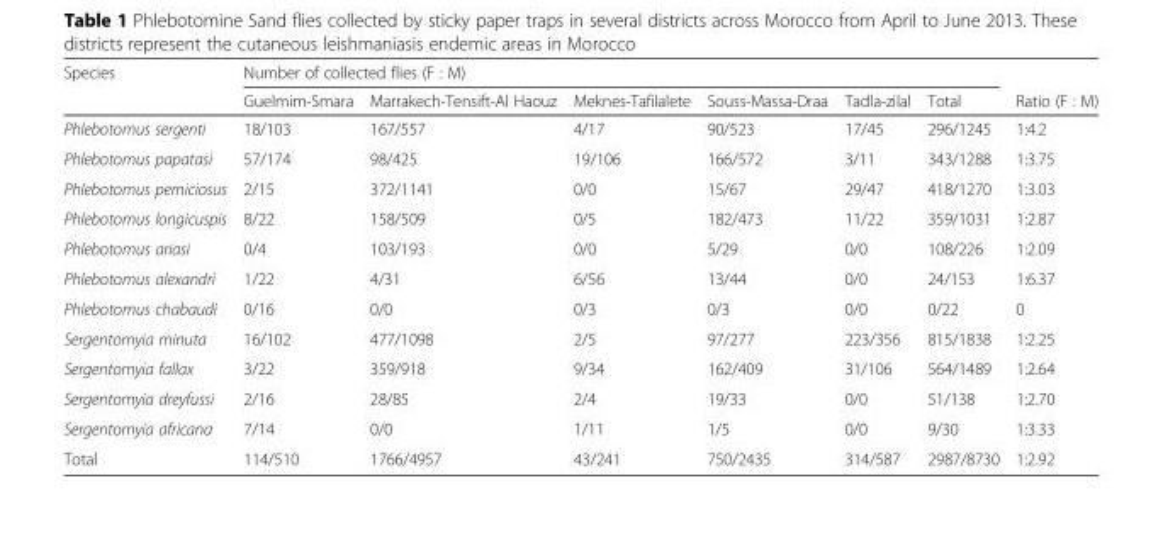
<table><thead><tr><td rowspan="2">Species</td><td colspan="6">Number of collected flies (F : M)</td><td rowspan="2">Ratio (F : M)</td></tr><tr><td>Guelmim-Smara</td><td>Marrakech-Tensift-Al Haouz</td><td>Meknes-Tafilalete</td><td>Souss-Massa-Draa</td><td>Tadla-zilal</td><td>Total</td></tr></thead><tbody><tr><td>Phlebotomus sergenti</td><td>18/103</td><td>167/557</td><td>4/17</td><td>90/523</td><td>17/45</td><td>296/1245</td><td>1:4.2</td></tr><tr><td>Phlebotomus papatasi</td><td>57/174</td><td>98/425</td><td>19/106</td><td>166/572</td><td>3/11</td><td>343/1288</td><td>1:3.75</td></tr><tr><td>Phlebotomus perniciosus</td><td>2/15</td><td>372/1141</td><td>0/0</td><td>15/67</td><td>29/47</td><td>418/1270</td><td>1:3.03</td></tr><tr><td>Phlebotomus longicuspis</td><td>8/22</td><td>158/509</td><td>0/5</td><td>182/473</td><td>11/22</td><td>359/1031</td><td>1:2.87</td></tr><tr><td>Phlebotomus ariasi</td><td>0/4</td><td>103/193</td><td>0/0</td><td>5/29</td><td>0/0</td><td>108/226</td><td>1:2.09</td></tr><tr><td>Phlebotomus alexandri</td><td>1/22</td><td>4/31</td><td>6/56</td><td>13/44</td><td>0/0</td><td>24/153</td><td>1:6.37</td></tr><tr><td>Phlebotomus chabaudi</td><td>0/16</td><td>0/0</td><td>0/3</td><td>0/3</td><td>0/0</td><td>0/22</td><td>0</td></tr><tr><td>Sergentomyia minuta</td><td>16/102</td><td>477/1098</td><td>2/5</td><td>97/277</td><td>223/356</td><td>815/1838</td><td>1:2.25</td></tr><tr><td>Sergentomyia fallax</td><td>3/22</td><td>359/918</td><td>9/34</td><td>162/409</td><td>31/106</td><td>564/1489</td><td>1:2.64</td></tr><tr><td>Sergentomyia dreyfussi</td><td>2/16</td><td>28/85</td><td>2/4</td><td>19/33</td><td>0/0</td><td>51/138</td><td>1:2.70</td></tr><tr><td>Sergentomyia africana</td><td>7/14</td><td>0/0</td><td>1/11</td><td>1/5</td><td>0/0</td><td>9/30</td><td>1:3.33</td></tr><tr><td>Total</td><td>114/510</td><td>1766/4957</td><td>43/241</td><td>750/2435</td><td>314/587</td><td>2987/8730</td><td>1:2.92</td></tr></tbody></table>